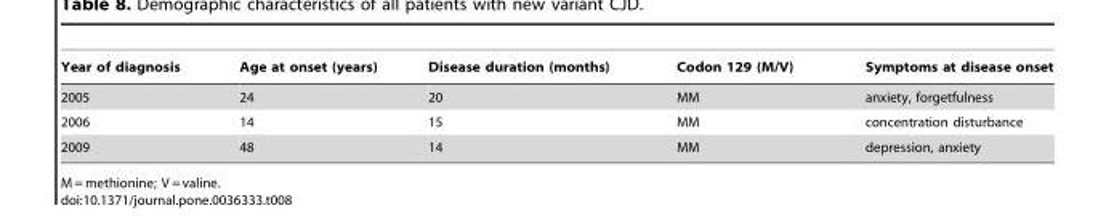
<table><thead><tr><td>Year of diagnosis</td><td>Age at onset (years)</td><td>Disease duration (months)</td><td>Codon 129 (M/V)</td><td>Symptoms at disease onset</td></tr></thead><tbody><tr><td>2005</td><td>24</td><td>20</td><td>MM</td><td>anxiety, forgetfulness</td></tr><tr><td>2006</td><td>14</td><td>15</td><td>MM</td><td>concentration disturbance</td></tr><tr><td>2009</td><td>48</td><td>14</td><td>MM</td><td>depression, anxiety</td></tr></tbody></table>